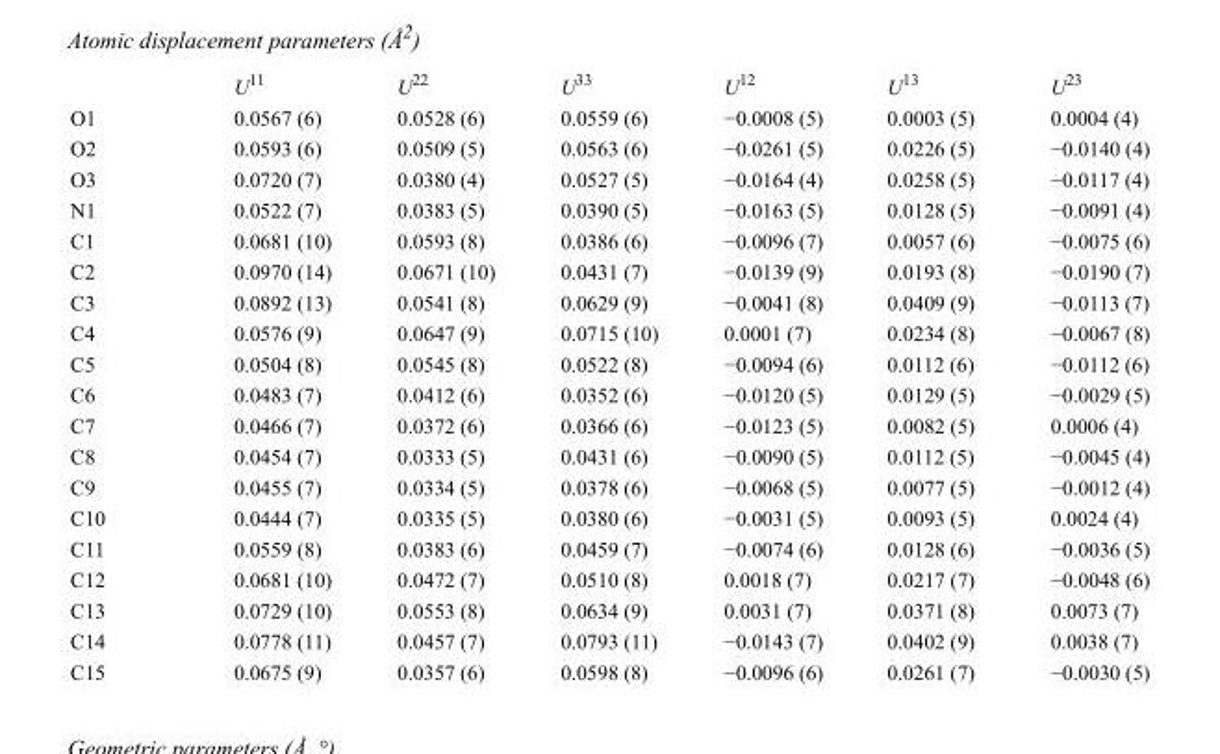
<table><thead><tr><td></td><td>U<sup>11</sup></td><td>U<sup>22</sup></td><td>U<sup>33</sup></td><td>U<sup>12</sup></td><td>U<sup>13</sup></td><td>U<sup>23</sup></td></tr></thead><tbody><tr><td>O1</td><td>0.0567 (6)</td><td>0.0528 (6)</td><td>0.0559 (6)</td><td>−0.0008 (5)</td><td>0.0003 (5)</td><td>0.0004 (4)</td></tr><tr><td>O2</td><td>0.0593 (6)</td><td>0.0509 (5)</td><td>0.0563 (6)</td><td>−0.0261 (5)</td><td>0.0226 (5)</td><td>−0.0140 (4)</td></tr><tr><td>O3</td><td>0.0720 (7)</td><td>0.0380 (4)</td><td>0.0527 (5)</td><td>−0.0164 (4)</td><td>0.0258 (5)</td><td>−0.0117 (4)</td></tr><tr><td>N1</td><td>0.0522 (7)</td><td>0.0383 (5)</td><td>0.0390 (5)</td><td>−0.0163 (5)</td><td>0.0128 (5)</td><td>−0.0091 (4)</td></tr><tr><td>C1</td><td>0.0681 (10)</td><td>0.0593 (8)</td><td>0.0386 (6)</td><td>−0.0096 (7)</td><td>0.0057 (6)</td><td>−0.0075 (6)</td></tr><tr><td>C2</td><td>0.0970 (14)</td><td>0.0671 (10)</td><td>0.0431 (7)</td><td>−0.0139 (9)</td><td>0.0193 (8)</td><td>−0.0190 (7)</td></tr><tr><td>C3</td><td>0.0892 (13)</td><td>0.0541 (8)</td><td>0.0629 (9)</td><td>−0.0041 (8)</td><td>0.0409 (9)</td><td>−0.0113 (7)</td></tr><tr><td>C4</td><td>0.0576 (9)</td><td>0.0647 (9)</td><td>0.0715 (10)</td><td>0.0001 (7)</td><td>0.0234 (8)</td><td>−0.0067 (8)</td></tr><tr><td>C5</td><td>0.0504 (8)</td><td>0.0545 (8)</td><td>0.0522 (8)</td><td>−0.0094 (6)</td><td>0.0112 (6)</td><td>−0.0112 (6)</td></tr><tr><td>C6</td><td>0.0483 (7)</td><td>0.0412 (6)</td><td>0.0352 (6)</td><td>−0.0120 (5)</td><td>0.0129 (5)</td><td>−0.0029 (5)</td></tr><tr><td>C7</td><td>0.0466 (7)</td><td>0.0372 (6)</td><td>0.0366 (6)</td><td>−0.0123 (5)</td><td>0.0082 (5)</td><td>0.0006 (4)</td></tr><tr><td>C8</td><td>0.0454 (7)</td><td>0.0333 (5)</td><td>0.0431 (6)</td><td>−0.0090 (5)</td><td>0.0112 (5)</td><td>−0.0045 (4)</td></tr><tr><td>C9</td><td>0.0455 (7)</td><td>0.0334 (5)</td><td>0.0378 (6)</td><td>−0.0068 (5)</td><td>0.0077 (5)</td><td>−0.0012 (4)</td></tr><tr><td>C10</td><td>0.0444 (7)</td><td>0.0335 (5)</td><td>0.0380 (6)</td><td>−0.0031 (5)</td><td>0.0093 (5)</td><td>0.0024 (4)</td></tr><tr><td>C11</td><td>0.0559 (8)</td><td>0.0383 (6)</td><td>0.0459 (7)</td><td>−0.0074 (6)</td><td>0.0128 (6)</td><td>−0.0036 (5)</td></tr><tr><td>C12</td><td>0.0681 (10)</td><td>0.0472 (7)</td><td>0.0510 (8)</td><td>0.0018 (7)</td><td>0.0217 (7)</td><td>−0.0048 (6)</td></tr><tr><td>C13</td><td>0.0729 (10)</td><td>0.0553 (8)</td><td>0.0634 (9)</td><td>0.0031 (7)</td><td>0.0371 (8)</td><td>0.0073 (7)</td></tr><tr><td>C14</td><td>0.0778 (11)</td><td>0.0457 (7)</td><td>0.0793 (11)</td><td>−0.0143 (7)</td><td>0.0402 (9)</td><td>0.0038 (7)</td></tr><tr><td>C15</td><td>0.0675 (9)</td><td>0.0357 (6)</td><td>0.0598 (8)</td><td>−0.0096 (6)</td><td>0.0261 (7)</td><td>−0.0030 (5)</td></tr></tbody></table>